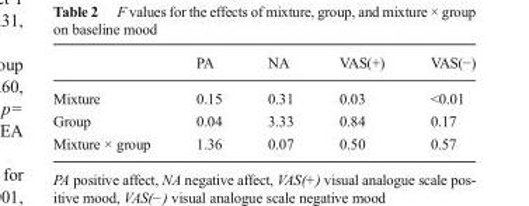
<table><thead><tr><td></td><td>PA</td><td>NA</td><td>VAS(+)</td><td>VAS(−)</td></tr></thead><tbody><tr><td>Mixture</td><td>0.15</td><td>0.31</td><td>0.03</td><td>&lt;0.01</td></tr><tr><td>Group</td><td>0.04</td><td>3.33</td><td>0.84</td><td>0.17</td></tr><tr><td>Mixture × group</td><td>1.36</td><td>0.07</td><td>0.50</td><td>0.57</td></tr></tbody></table>